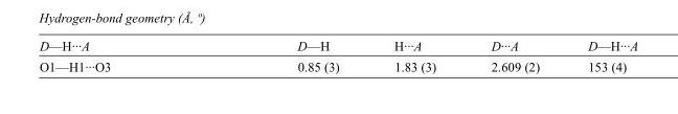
<table><tbody><tr><td>D—H···A</td><td>D—H</td><td>H···A</td><td>D···A</td><td>D—H···A</td></tr><tr><td>O1—H1···O3</td><td>0.85 (3)</td><td>1.83 (3)</td><td>2.609 (2)</td><td>153 (4)</td></tr></tbody></table>